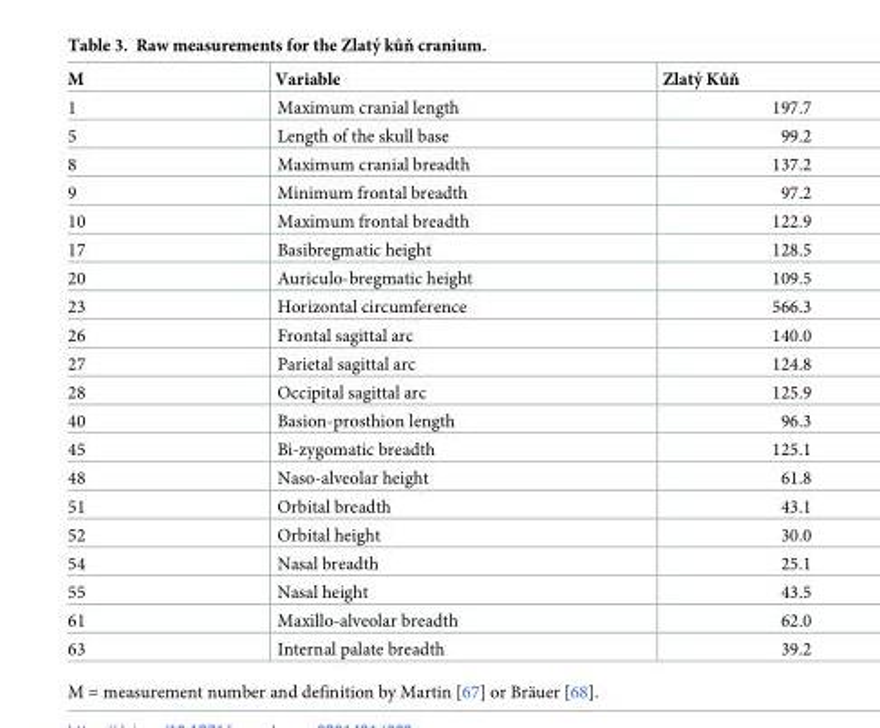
<table><thead><tr><td>M</td><td>Variable</td><td>Zlaty´ Kůň</td></tr></thead><tbody><tr><td>1</td><td>Maximum cranial length</td><td>197.7</td></tr><tr><td>5</td><td>Length of the skull base</td><td>99.2</td></tr><tr><td>8</td><td>Maximum cranial breadth</td><td>137.2</td></tr><tr><td>9</td><td>Minimum frontal breadth</td><td>97.2</td></tr><tr><td>10</td><td>Maximum frontal breadth</td><td>122.9</td></tr><tr><td>17</td><td>Basibregmatic height</td><td>128.5</td></tr><tr><td>20</td><td>Auriculo-bregmatic height</td><td>109.5</td></tr><tr><td>23</td><td>Horizontal circumference</td><td>566.3</td></tr><tr><td>26</td><td>Frontal sagittal arc</td><td>140.0</td></tr><tr><td>27</td><td>Parietal sagittal arc</td><td>124.8</td></tr><tr><td>28</td><td>Occipital sagittal arc</td><td>125.9</td></tr><tr><td>40</td><td>Basion-prosthion length</td><td>96.3</td></tr><tr><td>45</td><td>Bi-zygomatic breadth</td><td>125.1</td></tr><tr><td>48</td><td>Naso-alveolar height</td><td>61.8</td></tr><tr><td>51</td><td>Orbital breadth</td><td>43.1</td></tr><tr><td>52</td><td>Orbital height</td><td>30.0</td></tr><tr><td>54</td><td>Nasal breadth</td><td>25.1</td></tr><tr><td>55</td><td>Nasal height</td><td>43.5</td></tr><tr><td>61</td><td>Maxillo-alveolar breadth</td><td>62.0</td></tr><tr><td>63</td><td>Internal palate breadth</td><td>39.2</td></tr></tbody></table>